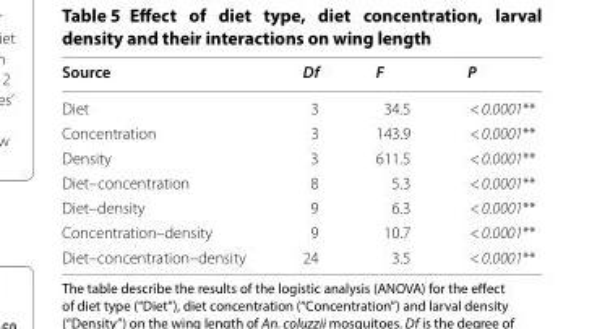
<table><thead><tr><td>Source</td><td>Df</td><td>F</td><td>P</td></tr></thead><tbody><tr><td>Diet</td><td>3</td><td>34.5</td><td>&lt; 0.0001**</td></tr><tr><td>Concentration</td><td>3</td><td>143.9</td><td>&lt; 0.0001**</td></tr><tr><td>Density</td><td>3</td><td>611.5</td><td>&lt; 0.0001**</td></tr><tr><td>Diet–concentration</td><td>8</td><td>5.3</td><td>&lt; 0.0001**</td></tr><tr><td>Diet–density</td><td>9</td><td>6.3</td><td>&lt; 0.0001**</td></tr><tr><td>Concentration–density</td><td>9</td><td>10.7</td><td>&lt; 0.0001**</td></tr><tr><td>Diet–concentration–density</td><td>24</td><td>3.5</td><td>&lt; 0.0001**</td></tr></tbody></table>